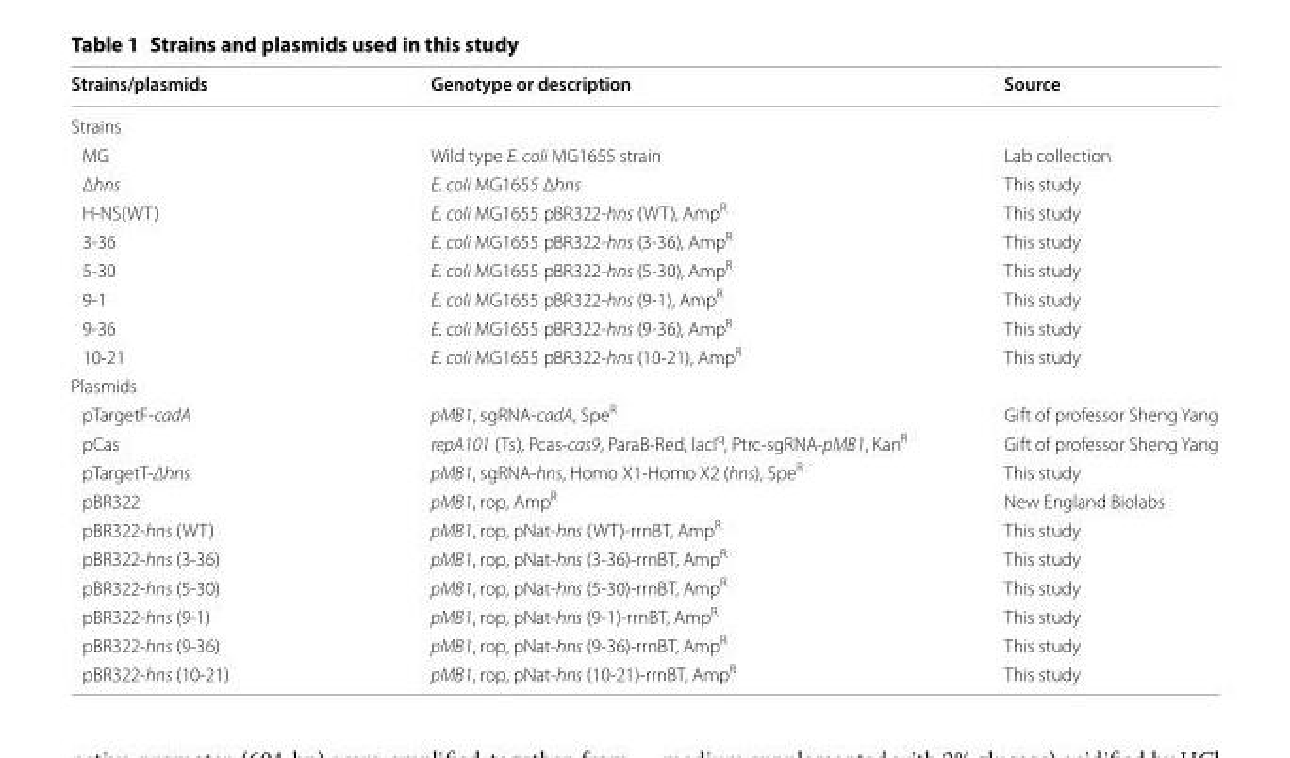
<table><thead><tr><td>Strains/plasmids</td><td>Genotype or description</td><td>Source</td></tr></thead><tbody><tr><td colspan="3">Strains</td></tr><tr><td>MG</td><td>Wild type E. coli MG1655 strain</td><td>Lab collection</td></tr><tr><td>Δhns</td><td>E. coli MG1655 Δhns</td><td>This study</td></tr><tr><td>H-NS(WT)</td><td>E. coli MG1655 pBR322-hns (WT), Amp<sup>R</sup></td><td>This study</td></tr><tr><td>3-36</td><td>E. coli MG1655 pBR322-hns (3-36), Amp<sup>R</sup></td><td>This study</td></tr><tr><td>5-30</td><td>E. coli MG1655 pBR322-hns (5-30), Amp<sup>R</sup></td><td>This study</td></tr><tr><td>9-1</td><td>E. coli MG1655 pBR322-hns (9-1), Amp<sup>R</sup></td><td>This study</td></tr><tr><td>9-36</td><td>E. coli MG1655 pBR322-hns (9-36), Amp<sup>R</sup></td><td>This study</td></tr><tr><td>10-21</td><td>E. coli MG1655 pBR322-hns (10-21), Amp<sup>R</sup></td><td>This study</td></tr><tr><td colspan="3">Plasmids</td></tr><tr><td>pTargetF-cadA</td><td>pMB1, sgRNA-cadA, Spe<sup>R</sup></td><td>Gift of professor Sheng Yang</td></tr><tr><td>pCas</td><td>repA101 (Ts), Pcas-cas9, ParaB-Red, lacI<sup>q</sup>, Ptrc-sgRNA-pMB1, Kan<sup>R</sup></td><td>Gift of professor Sheng Yang</td></tr><tr><td>pTargetT-Δhns</td><td>pMB1, sgRNA-hns, Homo X1-Homo X2 (hns), Spe<sup>R</sup></td><td>This study</td></tr><tr><td>pBR322</td><td>pMB1, rop, Amp<sup>R</sup></td><td>New England Biolabs</td></tr><tr><td>pBR322-hns (WT)</td><td>pMB1, rop, pNat-hns (WT)-rrnBT, Amp<sup>R</sup></td><td>This study</td></tr><tr><td>pBR322-hns (3-36)</td><td>pMB1, rop, pNat-hns (3-36)-rrnBT, Amp<sup>R</sup></td><td>This study</td></tr><tr><td>pBR322-hns (5-30)</td><td>pMB1, rop, pNat-hns (5-30)-rrnBT, Amp<sup>R</sup></td><td>This study</td></tr><tr><td>pBR322-hns (9-1)</td><td>pMB1, rop, pNat-hns (9-1)-rrnBT, Amp<sup>R</sup></td><td>This study</td></tr><tr><td>pBR322-hns (9-36)</td><td>pMB1, rop, pNat-hns (9-36)-rrnBT, Amp<sup>R</sup></td><td>This study</td></tr><tr><td>pBR322-hns (10-21)</td><td>pMB1, rop, pNat-hns (10-21)-rrnBT, Amp<sup>R</sup></td><td>This study</td></tr></tbody></table>